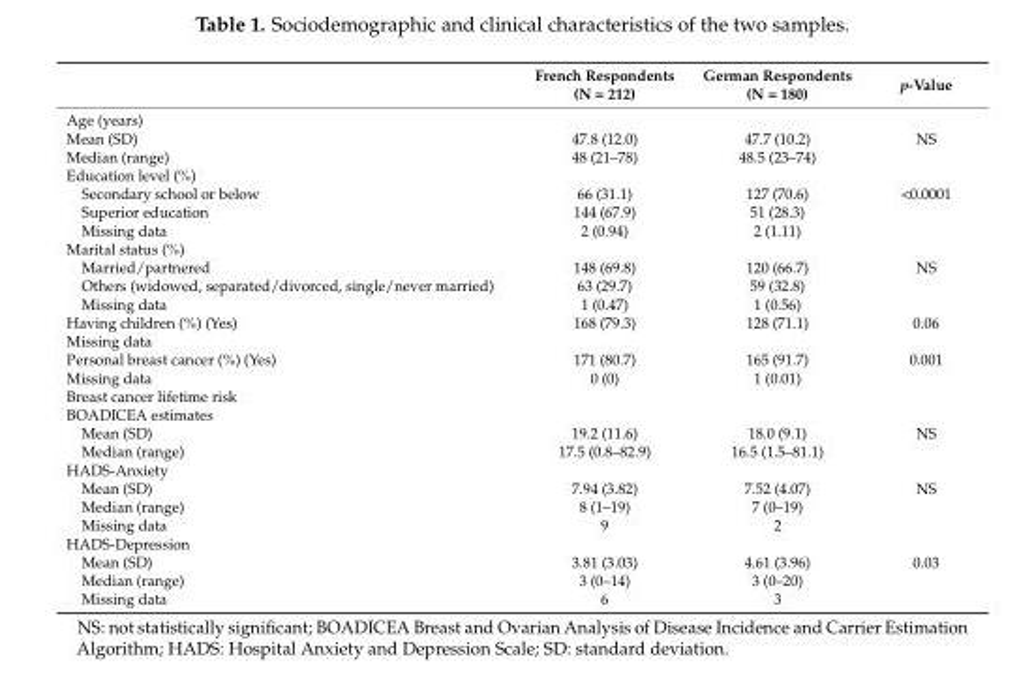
<table><thead><tr><td></td><td>French Respondents (N = 212)</td><td>German Respondents (N = 180)</td><td>p-Value</td></tr></thead><tbody><tr><td colspan="4">Age (years)</td></tr><tr><td>Mean (SD)</td><td>47.8 (12.0)</td><td>47.7 (10.2)</td><td>NS</td></tr><tr><td>Median (range)</td><td>48 (21–78)</td><td>48.5 (23–74)</td><td></td></tr><tr><td colspan="4">Education level (%)</td></tr><tr><td>Secondary school or below</td><td>66 (31.1)</td><td>127 (70.6)</td><td>&lt;0.0001</td></tr><tr><td>Superior education</td><td>144 (67.9)</td><td>51 (28.3)</td><td></td></tr><tr><td>Missing data</td><td>2 (0.94)</td><td>2 (1.11)</td><td></td></tr><tr><td colspan="4">Marital status (%)</td></tr><tr><td>Married/partnered</td><td>148 (69.8)</td><td>120 (66.7)</td><td>NS</td></tr><tr><td>Others (widowed, separated/divorced, single/never married)</td><td>63 (29.7)</td><td>59 (32.8)</td><td></td></tr><tr><td>Missing data</td><td>1 (0.47)</td><td>1 (0.56)</td><td></td></tr><tr><td>Having children (%) (Yes)</td><td>168 (79.3)</td><td>128 (71.1)</td><td>0.06</td></tr><tr><td colspan="4">Missing data</td></tr><tr><td>Personal breast cancer (%) (Yes)</td><td>171 (80.7)</td><td>165 (91.7)</td><td>0.001</td></tr><tr><td>Missing data</td><td>0 (0)</td><td>1 (0.01)</td><td></td></tr><tr><td colspan="4">Breast cancer lifetime risk</td></tr><tr><td colspan="4">BOADICEA estimates</td></tr><tr><td>Mean (SD)</td><td>19.2 (11.6)</td><td>18.0 (9.1)</td><td>NS</td></tr><tr><td>Median (range)</td><td>17.5 (0.8–82.9)</td><td>16.5 (1.5–81.1)</td><td></td></tr><tr><td colspan="4">HADS-Anxiety</td></tr><tr><td>Mean (SD)</td><td>7.94 (3.82)</td><td>7.52 (4.07)</td><td>NS</td></tr><tr><td>Median (range)</td><td>8 (1–19)</td><td>7 (0–19)</td><td></td></tr><tr><td>Missing data</td><td>9</td><td>2</td><td></td></tr><tr><td colspan="4">HADS-Depression</td></tr><tr><td>Mean (SD)</td><td>3.81 (3.03)</td><td>4.61 (3.96)</td><td>0.03</td></tr><tr><td>Median (range)</td><td>3 (0–14)</td><td>3 (0–20)</td><td></td></tr><tr><td>Missing data</td><td>6</td><td>3</td><td></td></tr></tbody></table>